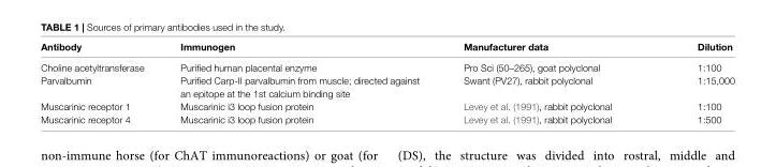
<table><thead><tr><td>Antibody</td><td>Immunogen</td><td>Manufacturer data</td><td>Dilution</td></tr></thead><tbody><tr><td>Choline acetyltransferase</td><td>Purified human placental enzyme</td><td>Pro Sci (50–265), goat polyclonal</td><td>1:100</td></tr><tr><td>Parvalbumin</td><td>Purified Carp-II parvalbumin from muscle; directed against an epitope at the 1st calcium binding site</td><td>Swant (PV27), rabbit polyclonal</td><td>1:15,000</td></tr><tr><td>Muscarinic receptor 1</td><td>Muscarinic i3 loop fusion protein</td><td>Levey et al. (1991), rabbit polyclonal</td><td>1:100</td></tr><tr><td>Muscarinic receptor 4</td><td>Muscarinic i3 loop fusion protein</td><td>Levey et al. (1991), rabbit polyclonal</td><td>1:500</td></tr></tbody></table>